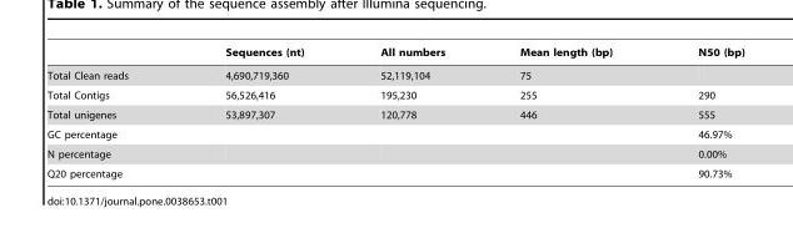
<table><thead><tr><td></td><td>Sequences (nt)</td><td>All numbers</td><td>Mean length (bp)</td><td>N50 (bp)</td></tr></thead><tbody><tr><td>Total Clean reads</td><td>4,690,719,360</td><td>52,119,104</td><td>75</td><td></td></tr><tr><td>Total Contigs</td><td>56,526,416</td><td>195,230</td><td>255</td><td>290</td></tr><tr><td>Total unigenes</td><td>53,897,307</td><td>120,778</td><td>446</td><td>555</td></tr><tr><td>GC percentage</td><td></td><td></td><td></td><td>46.97%</td></tr><tr><td>N percentage</td><td></td><td></td><td></td><td>0.00%</td></tr><tr><td>Q20 percentage</td><td></td><td></td><td></td><td>90.73%</td></tr></tbody></table>